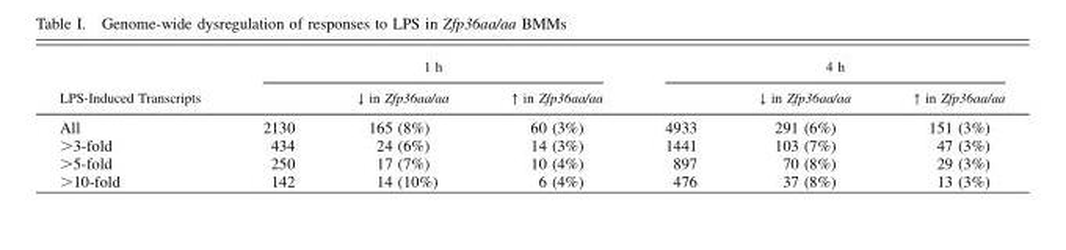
<table><thead><tr><td rowspan="2">LPS-Induced Transcripts</td><td colspan="3">1 h</td><td colspan="3">4 h</td></tr><tr><td></td><td>↓ in Zfp36aa/aa</td><td>↑ in Zfp36aa/aa</td><td></td><td>↓ in Zfp36aa/aa</td><td>↑ in Zfp36aa/aa</td></tr></thead><tbody><tr><td>All</td><td>2130</td><td>165 (8%)</td><td>60 (3%)</td><td>4933</td><td>291 (6%)</td><td>151 (3%)</td></tr><tr><td>&gt;3-fold</td><td>434</td><td>24 (6%)</td><td>14 (3%)</td><td>1441</td><td>103 (7%)</td><td>47 (3%)</td></tr><tr><td>&gt;5-fold</td><td>250</td><td>17 (7%)</td><td>10 (4%)</td><td>897</td><td>70 (8%)</td><td>29 (3%)</td></tr><tr><td>&gt;10-fold</td><td>142</td><td>14 (10%)</td><td>6 (4%)</td><td>476</td><td>37 (8%)</td><td>13 (3%)</td></tr></tbody></table>